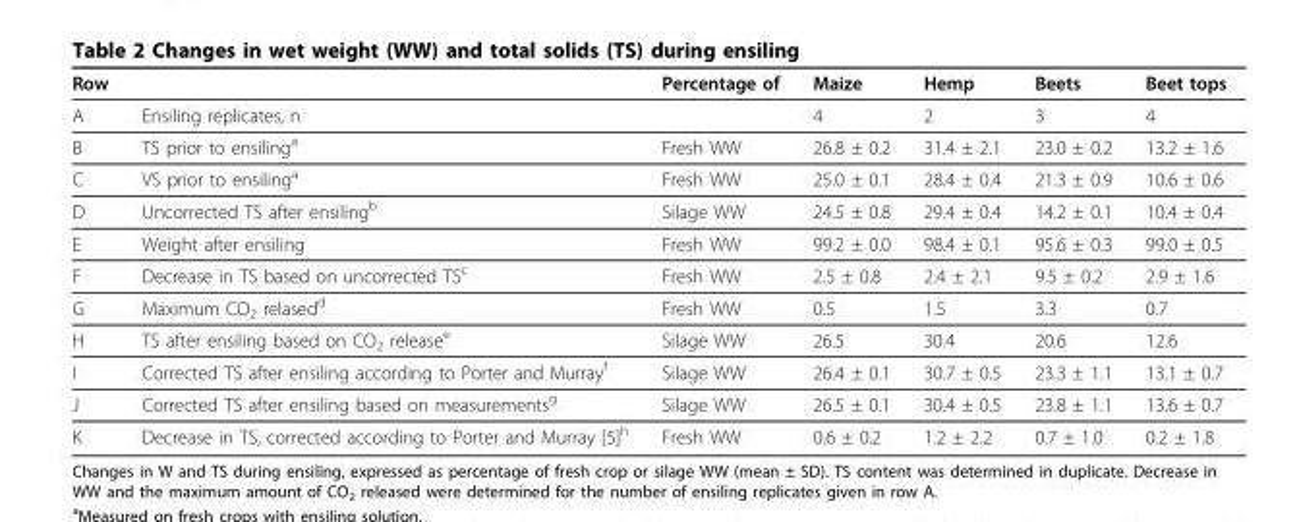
<table><thead><tr><td>Row</td><td></td><td>Percentage of</td><td>Maize</td><td>Hemp</td><td>Beets</td><td>Beet tops</td></tr></thead><tbody><tr><td>A</td><td>Ensiling replicates, n</td><td></td><td>4</td><td>2</td><td>3</td><td>4</td></tr><tr><td>B</td><td>TS prior to ensiling<sup>a</sup></td><td>Fresh WW</td><td>26.8 ± 0.2</td><td>31.4 ± 2.1</td><td>23.0 ± 0.2</td><td>13.2 ± 1.6</td></tr><tr><td>C</td><td>VS prior to ensiling<sup>a</sup></td><td>Fresh WW</td><td>25.0 ± 0.1</td><td>28.4 ± 0.4</td><td>21.3 ± 0.9</td><td>10.6 ± 0.6</td></tr><tr><td>D</td><td>Uncorrected TS after ensiling<sup>b</sup></td><td>Silage WW</td><td>24.5 ± 0.8</td><td>29.4 ± 0.4</td><td>14.2 ± 0.1</td><td>10.4 ± 0.4</td></tr><tr><td>E</td><td>Weight after ensiling</td><td>Fresh WW</td><td>99.2 ± 0.0</td><td>98.4 ± 0.1</td><td>95.6 ± 0.3</td><td>99.0 ± 0.5</td></tr><tr><td>F</td><td>Decrease in TS based on uncorrected TS<sup>c</sup></td><td>Fresh WW</td><td>2.5 ± 0.8</td><td>2.4 ± 2.1</td><td>9.5 ± 0.2</td><td>2.9 ± 1.6</td></tr><tr><td>G</td><td>Maximum CO<sub>2</sub> relased<sup>d</sup></td><td>Fresh WW</td><td>0.5</td><td>1.5</td><td>3.3</td><td>0.7</td></tr><tr><td>H</td><td>TS after ensiling based on CO<sub>2</sub> release<sup>e</sup></td><td>Silage WW</td><td>26.5</td><td>30.4</td><td>20.6</td><td>12.6</td></tr><tr><td>I</td><td>Corrected TS after ensiling according to Porter and Murray<sup>f</sup></td><td>Silage WW</td><td>26.4 ± 0.1</td><td>30.7 ± 0.5</td><td>23.3 ± 1.1</td><td>13.1 ± 0.7</td></tr><tr><td>J</td><td>Corrected TS after ensiling based on measurements<sup>g</sup></td><td>Silage WW</td><td>26.5 ± 0.1</td><td>30.4 ± 0.5</td><td>23.8 ± 1.1</td><td>13.6 ± 0.7</td></tr><tr><td>K</td><td>Decrease in TS, corrected according to Porter and Murray [5]<sup>h</sup></td><td>Fresh WW</td><td>0.6 ± 0.2</td><td>1.2 ± 2.2</td><td>0.7 ± 1.0</td><td>0.2 ± 1.8</td></tr></tbody></table>